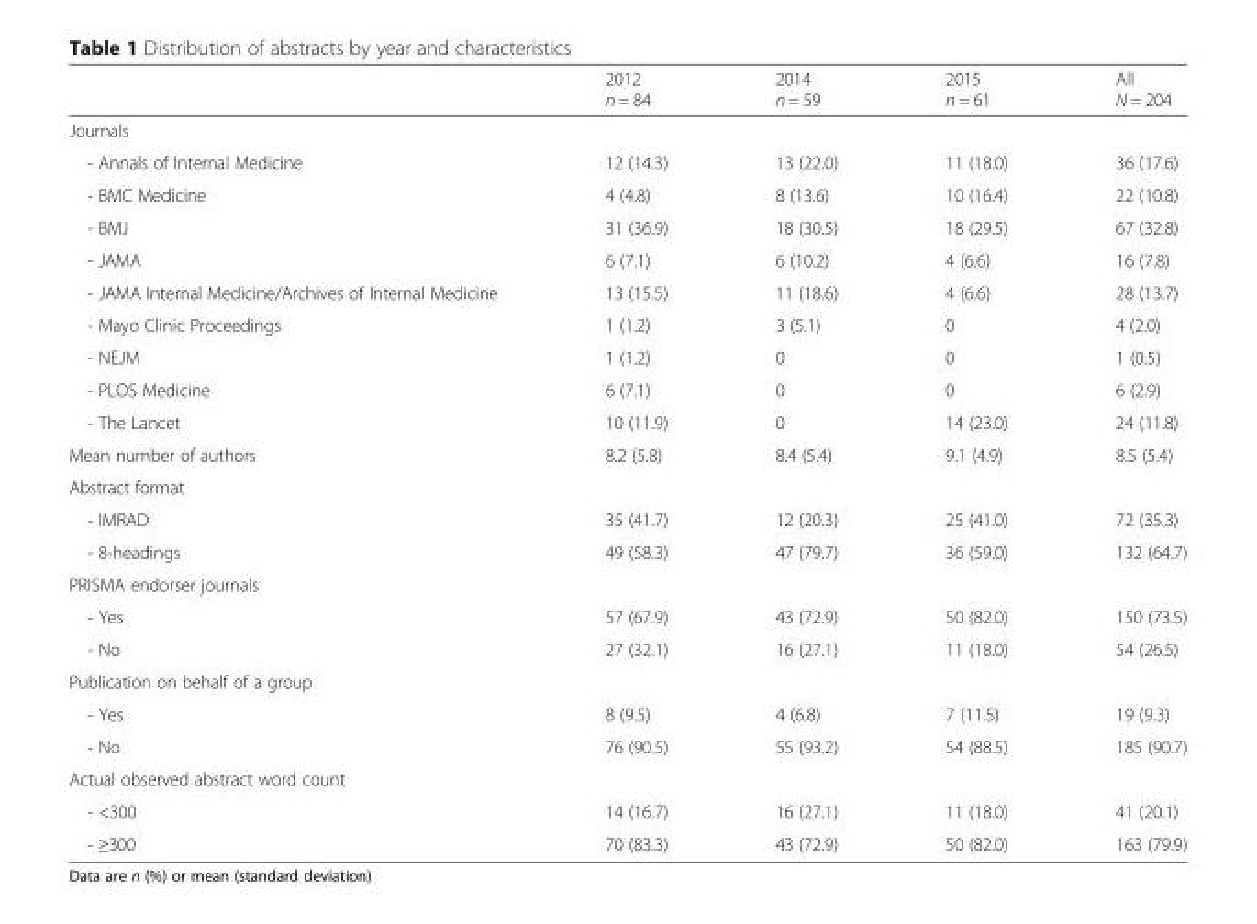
<table><thead><tr><td></td><td>2012 n = 84</td><td>2014 n = 59</td><td>2015 n = 61</td><td>All N = 204</td></tr></thead><tbody><tr><td colspan="5">Journals</td></tr><tr><td>- Annals of Internal Medicine</td><td>12 (14.3)</td><td>13 (22.0)</td><td>11 (18.0)</td><td>36 (17.6)</td></tr><tr><td>- BMC Medicine</td><td>4 (4.8)</td><td>8 (13.6)</td><td>10 (16.4)</td><td>22 (10.8)</td></tr><tr><td>- BMJ</td><td>31 (36.9)</td><td>18 (30.5)</td><td>18 (29.5)</td><td>67 (32.8)</td></tr><tr><td>- JAMA</td><td>6 (7.1)</td><td>6 (10.2)</td><td>4 (6.6)</td><td>16 (7.8)</td></tr><tr><td>- JAMA Internal Medicine/Archives of Internal Medicine</td><td>13 (15.5)</td><td>11 (18.6)</td><td>4 (6.6)</td><td>28 (13.7)</td></tr><tr><td>- Mayo Clinic Proceedings</td><td>1 (1.2)</td><td>3 (5.1)</td><td>0</td><td>4 (2.0)</td></tr><tr><td>- NEJM</td><td>1 (1.2)</td><td>0</td><td>0</td><td>1 (0.5)</td></tr><tr><td>- PLOS Medicine</td><td>6 (7.1)</td><td>0</td><td>0</td><td>6 (2.9)</td></tr><tr><td>- The Lancet</td><td>10 (11.9)</td><td>0</td><td>14 (23.0)</td><td>24 (11.8)</td></tr><tr><td>Mean number of authors</td><td>8.2 (5.8)</td><td>8.4 (5.4)</td><td>9.1 (4.9)</td><td>8.5 (5.4)</td></tr><tr><td colspan="5">Abstract format</td></tr><tr><td>- IMRAD</td><td>35 (41.7)</td><td>12 (20.3)</td><td>25 (41.0)</td><td>72 (35.3)</td></tr><tr><td>- 8-headings</td><td>49 (58.3)</td><td>47 (79.7)</td><td>36 (59.0)</td><td>132 (64.7)</td></tr><tr><td colspan="5">PRISMA endorser journals</td></tr><tr><td>- Yes</td><td>57 (67.9)</td><td>43 (72.9)</td><td>50 (82.0)</td><td>150 (73.5)</td></tr><tr><td>- No</td><td>27 (32.1)</td><td>16 (27.1)</td><td>11 (18.0)</td><td>54 (26.5)</td></tr><tr><td colspan="5">Publication on behalf of a group</td></tr><tr><td>- Yes</td><td>8 (9.5)</td><td>4 (6.8)</td><td>7 (11.5)</td><td>19 (9.3)</td></tr><tr><td>- No</td><td>76 (90.5)</td><td>55 (93.2)</td><td>54 (88.5)</td><td>185 (90.7)</td></tr><tr><td colspan="5">Actual observed abstract word count</td></tr><tr><td>- &lt;300</td><td>14 (16.7)</td><td>16 (27.1)</td><td>11 (18.0)</td><td>41 (20.1)</td></tr><tr><td>- ≥300</td><td>70 (83.3)</td><td>43 (72.9)</td><td>50 (82.0)</td><td>163 (79.9)</td></tr></tbody></table>